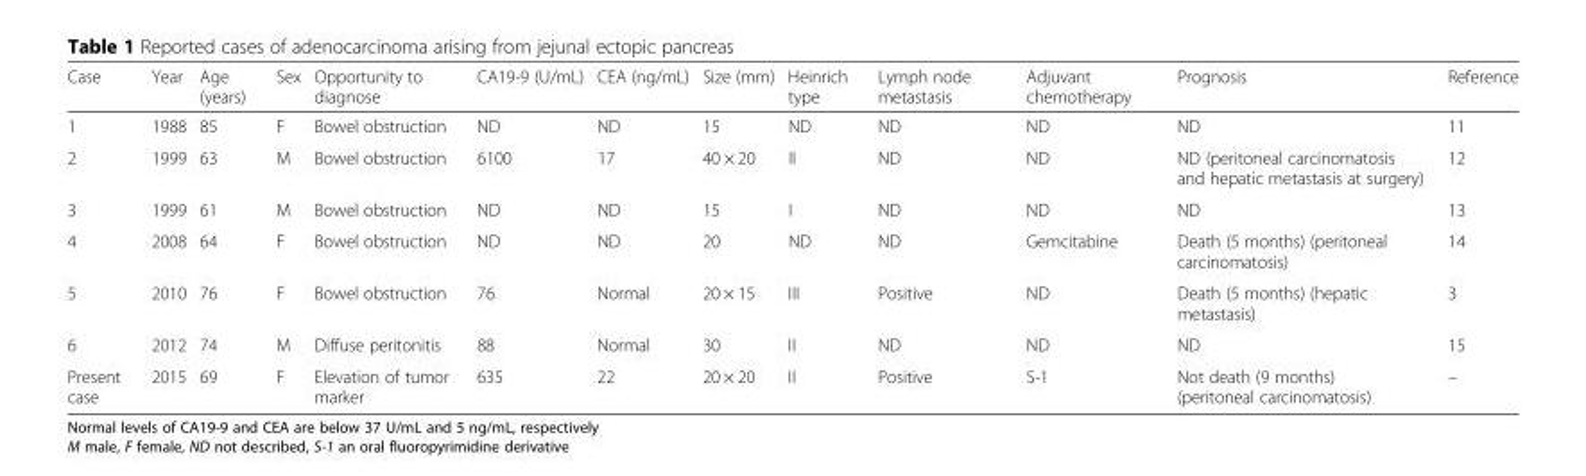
<table><thead><tr><td>Case</td><td>Year</td><td>Age (years)</td><td>Sex</td><td>Opportunity to diagnose</td><td>CA19-9 (U/mL)</td><td>CEA (ng/mL)</td><td>Size (mm)</td><td>Heinrich type</td><td>Lymph node metastasis</td><td>Adjuvant chemotherapy</td><td>Prognosis</td><td>Reference</td></tr></thead><tbody><tr><td>1</td><td>1988</td><td>85</td><td>F</td><td>Bowel obstruction</td><td>ND</td><td>ND</td><td>15</td><td>ND</td><td>ND</td><td>ND</td><td>ND</td><td>11</td></tr><tr><td>2</td><td>1999</td><td>63</td><td>M</td><td>Bowel obstruction</td><td>6100</td><td>17</td><td>40 × 20</td><td>II</td><td>ND</td><td>ND</td><td>ND (peritoneal carcinomatosis and hepatic metastasis at surgery)</td><td>12</td></tr><tr><td>3</td><td>1999</td><td>61</td><td>M</td><td>Bowel obstruction</td><td>ND</td><td>ND</td><td>15</td><td>I</td><td>ND</td><td>ND</td><td>ND</td><td>13</td></tr><tr><td>4</td><td>2008</td><td>64</td><td>F</td><td>Bowel obstruction</td><td>ND</td><td>ND</td><td>20</td><td>ND</td><td>ND</td><td>Gemcitabine</td><td>Death (5 months) (peritoneal carcinomatosis)</td><td>14</td></tr><tr><td>5</td><td>2010</td><td>76</td><td>F</td><td>Bowel obstruction</td><td>76</td><td>Normal</td><td>20 × 15</td><td>III</td><td>Positive</td><td>ND</td><td>Death (5 months) (hepatic metastasis)</td><td>3</td></tr><tr><td>6</td><td>2012</td><td>74</td><td>M</td><td>Diffuse peritonitis</td><td>88</td><td>Normal</td><td>30</td><td>II</td><td>ND</td><td>ND</td><td>ND</td><td>15</td></tr><tr><td>Present case</td><td>2015</td><td>69</td><td>F</td><td>Elevation of tumor marker</td><td>635</td><td>22</td><td>20 × 20</td><td>II</td><td>Positive</td><td>S-1</td><td>Not death (9 months) (peritoneal carcinomatosis)</td><td>–</td></tr></tbody></table>